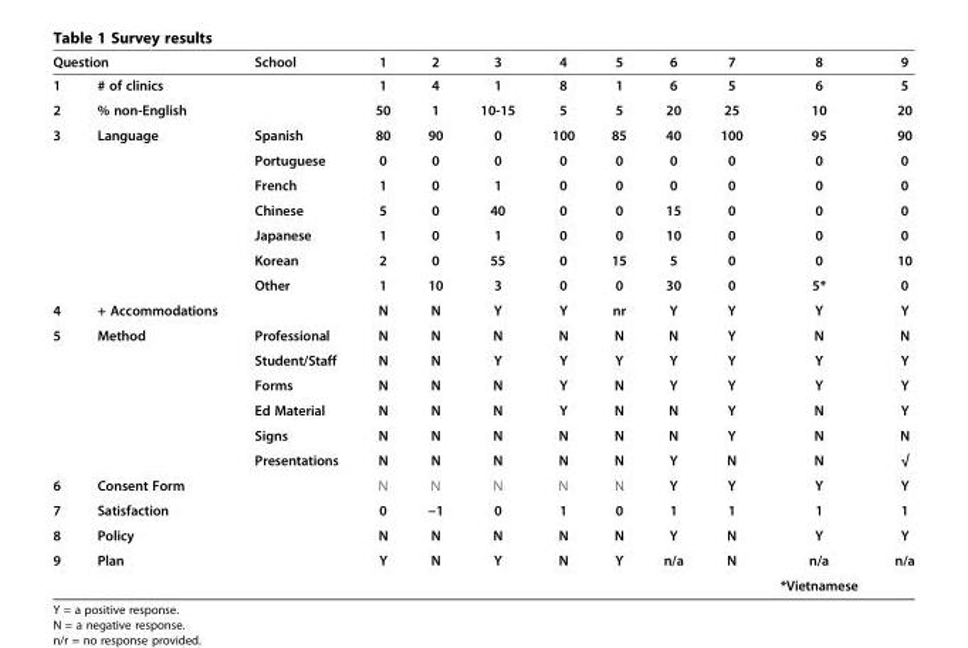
<table><thead><tr><td colspan="2">Question</td><td rowspan="2">School</td><td rowspan="2">1 1</td><td rowspan="2">2 4</td><td rowspan="2">3 1</td><td rowspan="2">4 8</td><td rowspan="2">5 1</td><td rowspan="2">6 6</td><td rowspan="2">7 5</td><td rowspan="2">8 6</td><td rowspan="2">9 5</td></tr><tr><td>1</td><td># of clinics</td></tr></thead><tbody><tr><td>2</td><td>% non-English</td><td></td><td>50</td><td>1</td><td>10-15</td><td>5</td><td>5</td><td>20</td><td>25</td><td>10</td><td>20</td></tr><tr><td rowspan="7">3</td><td>Language</td><td>Spanish</td><td>80</td><td>90</td><td>0</td><td>100</td><td>85</td><td>40</td><td>100</td><td>95</td><td>90</td></tr><tr><td></td><td>Portuguese</td><td>0</td><td>0</td><td>0</td><td>0</td><td>0</td><td>0</td><td>0</td><td>0</td><td>0</td></tr><tr><td></td><td>French</td><td>1</td><td>0</td><td>1</td><td>0</td><td>0</td><td>0</td><td>0</td><td>0</td><td>0</td></tr><tr><td></td><td>Chinese</td><td>5</td><td>0</td><td>40</td><td>0</td><td>0</td><td>15</td><td>0</td><td>0</td><td>0</td></tr><tr><td></td><td>Japanese</td><td>1</td><td>0</td><td>1</td><td>0</td><td>0</td><td>10</td><td>0</td><td>0</td><td>0</td></tr><tr><td></td><td>Korean</td><td>2</td><td>0</td><td>55</td><td>0</td><td>15</td><td>5</td><td>0</td><td>0</td><td>10</td></tr><tr><td></td><td>Other</td><td>1</td><td>10</td><td>3</td><td>0</td><td>0</td><td>30</td><td>0</td><td>5*</td><td>0</td></tr><tr><td>4</td><td>+ Accommodations</td><td></td><td>N</td><td>N</td><td>Y</td><td>Y</td><td>nr</td><td>Y</td><td>Y</td><td>Y</td><td>Y</td></tr><tr><td rowspan="6">5</td><td>Method</td><td>Professional</td><td>N</td><td>N</td><td>N</td><td>N</td><td>N</td><td>N</td><td>Y</td><td>N</td><td>N</td></tr><tr><td></td><td>Student/Staff</td><td>N</td><td>N</td><td>Y</td><td>Y</td><td>Y</td><td>Y</td><td>Y</td><td>Y</td><td>Y</td></tr><tr><td></td><td>Forms</td><td>N</td><td>N</td><td>N</td><td>Y</td><td>N</td><td>Y</td><td>Y</td><td>Y</td><td>Y</td></tr><tr><td></td><td>Ed Material</td><td>N</td><td>N</td><td>N</td><td>Y</td><td>N</td><td>N</td><td>Y</td><td>N</td><td>Y</td></tr><tr><td></td><td>Signs</td><td>N</td><td>N</td><td>N</td><td>N</td><td>N</td><td>N</td><td>Y</td><td>N</td><td>N</td></tr><tr><td></td><td>Presentations</td><td>N</td><td>N</td><td>N</td><td>N</td><td>N</td><td>Y</td><td>N</td><td>N</td><td>√</td></tr><tr><td>6</td><td>Consent Form</td><td></td><td>N</td><td>N</td><td>N</td><td>N</td><td>N</td><td>Y</td><td>Y</td><td>Y</td><td>Y</td></tr><tr><td>7</td><td>Satisfaction</td><td></td><td>0</td><td>−1</td><td>0</td><td>1</td><td>0</td><td>1</td><td>1</td><td>1</td><td>1</td></tr><tr><td>8</td><td>Policy</td><td></td><td>N</td><td>N</td><td>N</td><td>N</td><td>N</td><td>Y</td><td>N</td><td>Y</td><td>Y</td></tr><tr><td rowspan="2">9</td><td>Plan</td><td></td><td>Y</td><td>N</td><td>Y</td><td>N</td><td>Y</td><td>n/a</td><td>N</td><td>n/a</td><td>n/a</td></tr><tr><td></td><td></td><td></td><td></td><td></td><td></td><td></td><td></td><td></td><td>*Vietnamese</td><td></td></tr></tbody></table>